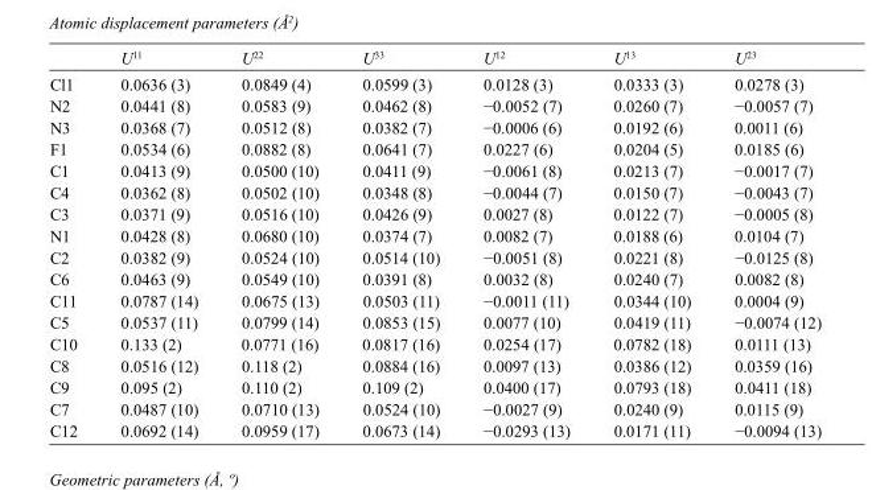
<table><thead><tr><td></td><td>U<sup>11</sup></td><td>U<sup>22</sup></td><td>U<sup>33</sup></td><td>U<sup>12</sup></td><td>U<sup>13</sup></td><td>U<sup>23</sup></td></tr></thead><tbody><tr><td>Cl1</td><td>0.0636 (3)</td><td>0.0849 (4)</td><td>0.0599 (3)</td><td>0.0128 (3)</td><td>0.0333 (3)</td><td>0.0278 (3)</td></tr><tr><td>N2</td><td>0.0441 (8)</td><td>0.0583 (9)</td><td>0.0462 (8)</td><td>−0.0052 (7)</td><td>0.0260 (7)</td><td>−0.0057 (7)</td></tr><tr><td>N3</td><td>0.0368 (7)</td><td>0.0512 (8)</td><td>0.0382 (7)</td><td>−0.0006 (6)</td><td>0.0192 (6)</td><td>0.0011 (6)</td></tr><tr><td>F1</td><td>0.0534 (6)</td><td>0.0882 (8)</td><td>0.0641 (7)</td><td>0.0227 (6)</td><td>0.0204 (5)</td><td>0.0185 (6)</td></tr><tr><td>C1</td><td>0.0413 (9)</td><td>0.0500 (10)</td><td>0.0411 (9)</td><td>−0.0061 (8)</td><td>0.0213 (7)</td><td>−0.0017 (7)</td></tr><tr><td>C4</td><td>0.0362 (8)</td><td>0.0502 (10)</td><td>0.0348 (8)</td><td>−0.0044 (7)</td><td>0.0150 (7)</td><td>−0.0043 (7)</td></tr><tr><td>C3</td><td>0.0371 (9)</td><td>0.0516 (10)</td><td>0.0426 (9)</td><td>0.0027 (8)</td><td>0.0122 (7)</td><td>−0.0005 (8)</td></tr><tr><td>N1</td><td>0.0428 (8)</td><td>0.0680 (10)</td><td>0.0374 (7)</td><td>0.0082 (7)</td><td>0.0188 (6)</td><td>0.0104 (7)</td></tr><tr><td>C2</td><td>0.0382 (9)</td><td>0.0524 (10)</td><td>0.0514 (10)</td><td>−0.0051 (8)</td><td>0.0221 (8)</td><td>−0.0125 (8)</td></tr><tr><td>C6</td><td>0.0463 (9)</td><td>0.0549 (10)</td><td>0.0391 (8)</td><td>0.0032 (8)</td><td>0.0240 (7)</td><td>0.0082 (8)</td></tr><tr><td>C11</td><td>0.0787 (14)</td><td>0.0675 (13)</td><td>0.0503 (11)</td><td>−0.0011 (11)</td><td>0.0344 (10)</td><td>0.0004 (9)</td></tr><tr><td>C5</td><td>0.0537 (11)</td><td>0.0799 (14)</td><td>0.0853 (15)</td><td>0.0077 (10)</td><td>0.0419 (11)</td><td>−0.0074 (12)</td></tr><tr><td>C10</td><td>0.133 (2)</td><td>0.0771 (16)</td><td>0.0817 (16)</td><td>0.0254 (17)</td><td>0.0782 (18)</td><td>0.0111 (13)</td></tr><tr><td>C8</td><td>0.0516 (12)</td><td>0.118 (2)</td><td>0.0884 (16)</td><td>0.0097 (13)</td><td>0.0386 (12)</td><td>0.0359 (16)</td></tr><tr><td>C9</td><td>0.095 (2)</td><td>0.110 (2)</td><td>0.109 (2)</td><td>0.0400 (17)</td><td>0.0793 (18)</td><td>0.0411 (18)</td></tr><tr><td>C7</td><td>0.0487 (10)</td><td>0.0710 (13)</td><td>0.0524 (10)</td><td>−0.0027 (9)</td><td>0.0240 (9)</td><td>0.0115 (9)</td></tr><tr><td>C12</td><td>0.0692 (14)</td><td>0.0959 (17)</td><td>0.0673 (14)</td><td>−0.0293 (13)</td><td>0.0171 (11)</td><td>−0.0094 (13)</td></tr></tbody></table>